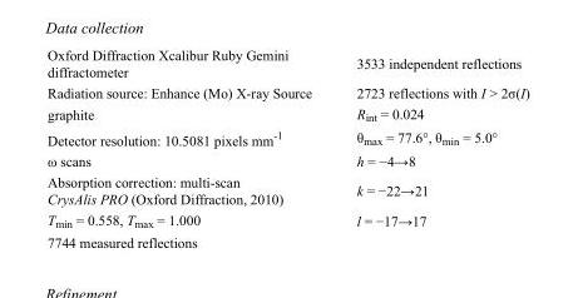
<table><tbody><tr><td>Oxford Diffraction Xcalibur Ruby Gemini diffractometer</td><td>3533 independent reflections</td></tr><tr><td>Radiation source: Enhance (Mo) X-ray Source</td><td>2723 reflections with I &gt; 2σ(I)</td></tr><tr><td>graphite</td><td>R<sub>int</sub> = 0.024</td></tr><tr><td>Detector resolution: 10.5081 pixels mm<sup>-1</sup></td><td>θ<sub>max</sub> = 77.6°, θ<sub>min</sub> = 5.0°</td></tr><tr><td>ω scans</td><td>h = −4→8</td></tr><tr><td>Absorption correction: multi-scan CrysAlis PRO (Oxford Diffraction, 2010)</td><td>k = −22→21</td></tr><tr><td>T<sub>min</sub> = 0.558, T<sub>max</sub> = 1.000</td><td>l = −17→17</td></tr><tr><td>7744 measured reflections</td><td></td></tr></tbody></table>